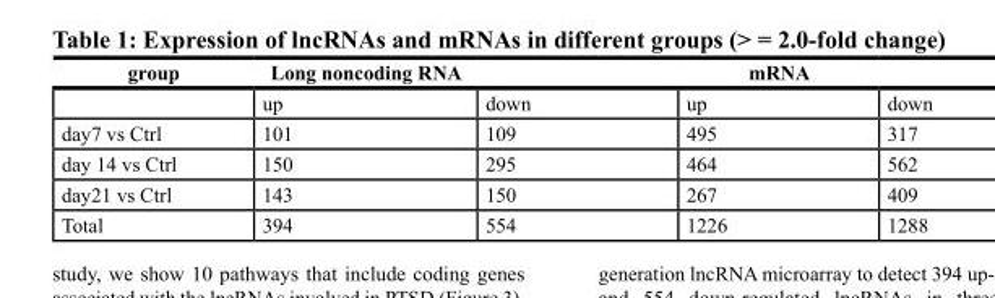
<table><thead><tr><td>group</td><td>Long noncoding RNA</td><td></td><td>mRNA</td><td></td></tr></thead><tbody><tr><td></td><td>up</td><td>down</td><td>up</td><td>down</td></tr><tr><td>day7 vs Ctrl</td><td>101</td><td>109</td><td>495</td><td>317</td></tr><tr><td>day 14 vs Ctrl</td><td>150</td><td>295</td><td>464</td><td>562</td></tr><tr><td>day21 vs Ctrl</td><td>143</td><td>150</td><td>267</td><td>409</td></tr><tr><td>Total</td><td>394</td><td>554</td><td>1226</td><td>1288</td></tr></tbody></table>